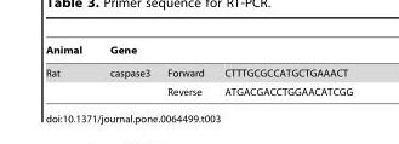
<table><thead><tr><td>Animal</td><td>Gene</td><td></td><td></td></tr></thead><tbody><tr><td rowspan="2">Rat</td><td>caspase3</td><td>Forward</td><td>CTTTGCGCCATGCTGAAACT</td></tr><tr><td></td><td>Reverse</td><td>ATGACGACCTGGAACATCGG</td></tr></tbody></table>